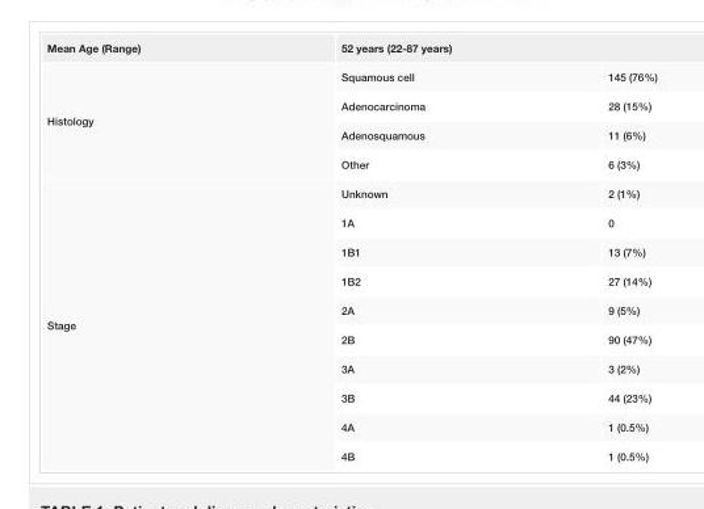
<table><tbody><tr><td>Mean Age (Range)</td><td colspan="2">52 years (22-87 years)</td></tr><tr><td rowspan="4">Histology</td><td>Squamous cell</td><td>145 (76%)</td></tr><tr><td>Adenocarcinoma</td><td>28 (15%)</td></tr><tr><td>Adenosquamous</td><td>11 (6%)</td></tr><tr><td>Other</td><td>6 (3%)</td></tr><tr><td rowspan="10">Stage</td><td>Unknown</td><td>2 (1%)</td></tr><tr><td>1A</td><td>0</td></tr><tr><td>1B1</td><td>13 (7%)</td></tr><tr><td>1B2</td><td>27 (14%)</td></tr><tr><td>2A</td><td>9 (5%)</td></tr><tr><td>2B</td><td>90 (47%)</td></tr><tr><td>3A</td><td>3 (2%)</td></tr><tr><td>3B</td><td>44 (23%)</td></tr><tr><td>4A</td><td>1 (0.5%)</td></tr><tr><td>4B</td><td>1 (0.5%)</td></tr></tbody></table>